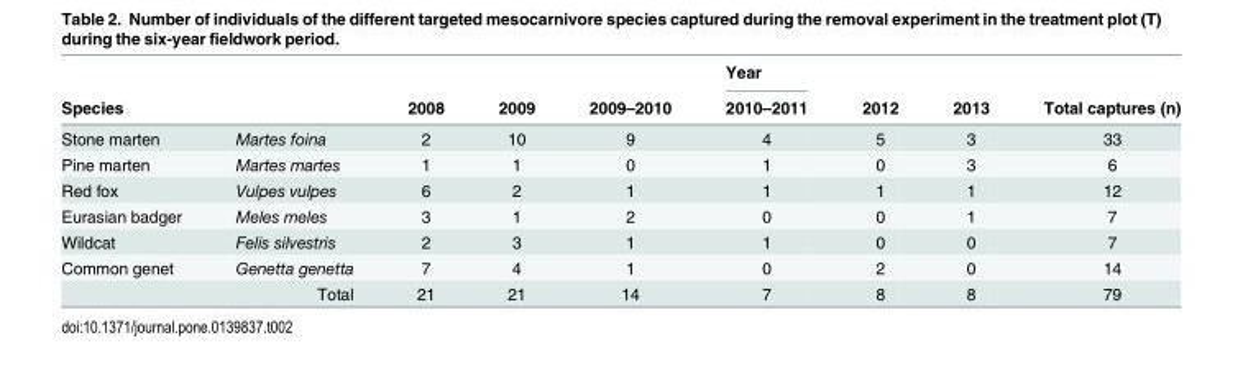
<table><thead><tr><td rowspan="2">Species</td><td rowspan="2"></td><td rowspan="2">2008</td><td rowspan="2">2009</td><td rowspan="2">2009–2010</td><td rowspan="2">Year 2010–2011</td><td rowspan="2">2012</td><td rowspan="2">2013</td><td rowspan="2">Total captures (n)</td></tr><tr></tr></thead><tbody><tr><td>Stone marten</td><td>Martes foina</td><td>2</td><td>10</td><td>9</td><td>4</td><td>5</td><td>3</td><td>33</td></tr><tr><td>Pine marten</td><td>Martes martes</td><td>1</td><td>1</td><td>0</td><td>1</td><td>0</td><td>3</td><td>6</td></tr><tr><td>Red fox</td><td>Vulpes vulpes</td><td>6</td><td>2</td><td>1</td><td>1</td><td>1</td><td>1</td><td>12</td></tr><tr><td>Eurasian badger</td><td>Meles meles</td><td>3</td><td>1</td><td>2</td><td>0</td><td>0</td><td>1</td><td>7</td></tr><tr><td>Wildcat</td><td>Felis silvestris</td><td>2</td><td>3</td><td>1</td><td>1</td><td>0</td><td>0</td><td>7</td></tr><tr><td rowspan="2">Common genet</td><td>Genetta genetta</td><td>7</td><td>4</td><td>1</td><td>0</td><td>2</td><td>0</td><td>14</td></tr><tr><td>Total</td><td>21</td><td>21</td><td>14</td><td>7</td><td>8</td><td>8</td><td>79</td></tr></tbody></table>